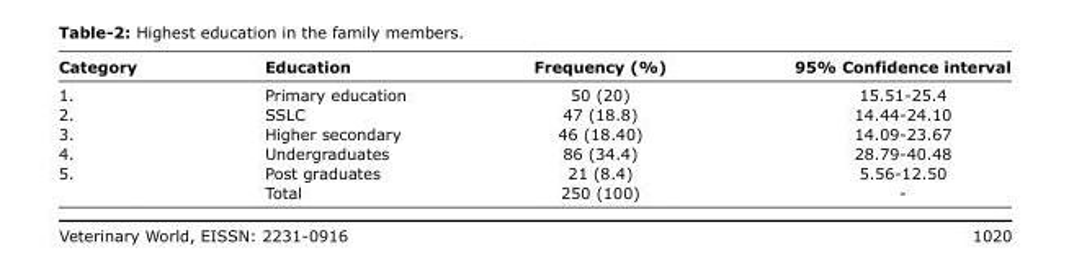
<table><thead><tr><td>Category</td><td>Education</td><td>Frequency (%)</td><td>95% Confidence interval</td></tr></thead><tbody><tr><td>1.</td><td>Primary education</td><td>50 (20)</td><td>15.51-25.4</td></tr><tr><td>2.</td><td>SSLC</td><td>47 (18.8)</td><td>14.44-24.10</td></tr><tr><td>3.</td><td>Higher secondary</td><td>46 (18.40)</td><td>14.09-23.67</td></tr><tr><td>4.</td><td>Undergraduates</td><td>86 (34.4)</td><td>28.79-40.48</td></tr><tr><td rowspan="2">5.</td><td>Post graduates</td><td>21 (8.4)</td><td>5.56-12.50</td></tr><tr><td>Total</td><td>250 (100)</td><td>-</td></tr></tbody></table>